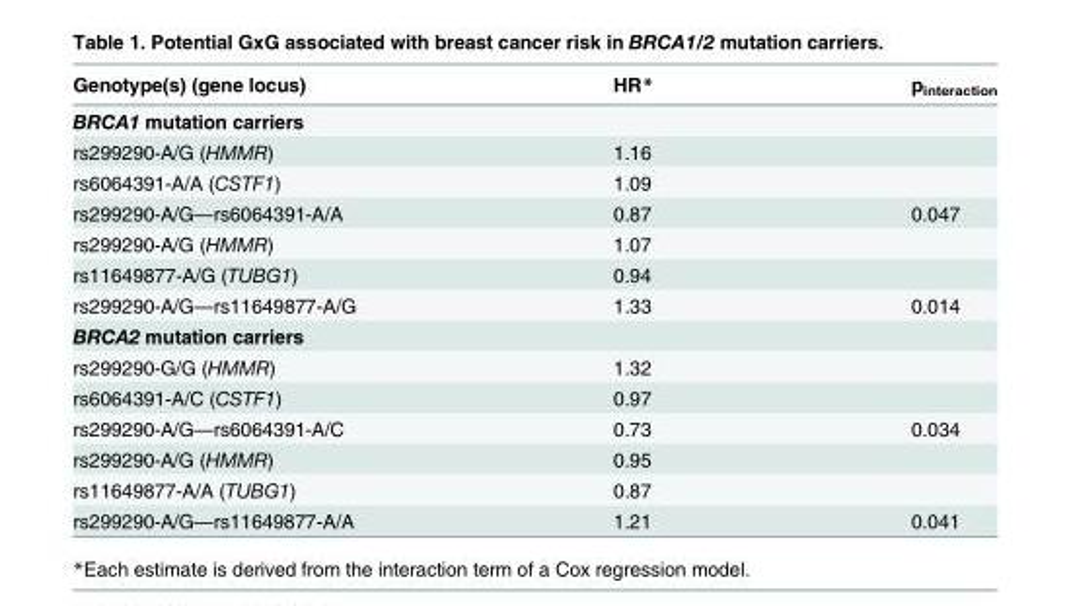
<table><thead><tr><td>Genotype(s) (gene locus)</td><td>HR*</td><td>p<sub>interaction</sub></td></tr></thead><tbody><tr><td colspan="3">BRCA1 mutation carriers</td></tr><tr><td>rs299290-A/G (HMMR)</td><td>1.16</td><td></td></tr><tr><td>rs6064391-A/A (CSTF1)</td><td>1.09</td><td></td></tr><tr><td>rs299290-A/G—rs6064391-A/A</td><td>0.87</td><td>0.047</td></tr><tr><td>rs299290-A/G (HMMR)</td><td>1.07</td><td></td></tr><tr><td>rs11649877-A/G (TUBG1)</td><td>0.94</td><td></td></tr><tr><td>rs299290-A/G—rs11649877-A/G</td><td>1.33</td><td>0.014</td></tr><tr><td colspan="3">BRCA2 mutation carriers</td></tr><tr><td>rs299290-G/G (HMMR)</td><td>1.32</td><td></td></tr><tr><td>rs6064391-A/C (CSTF1)</td><td>0.97</td><td></td></tr><tr><td>rs299290-A/G—rs6064391-A/C</td><td>0.73</td><td>0.034</td></tr><tr><td>rs299290-A/G (HMMR)</td><td>0.95</td><td></td></tr><tr><td>rs11649877-A/A (TUBG1)</td><td>0.87</td><td></td></tr><tr><td>rs299290-A/G—rs11649877-A/A</td><td>1.21</td><td>0.041</td></tr></tbody></table>